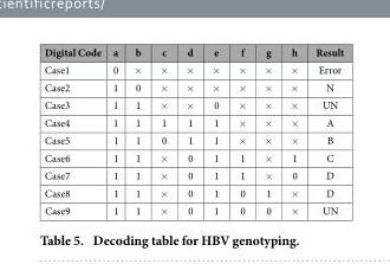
<table><thead><tr><td>Digital Code</td><td>a</td><td>b</td><td>c</td><td>d</td><td>e</td><td>f</td><td>g</td><td>h</td><td>Result</td></tr></thead><tbody><tr><td>Case1</td><td>0</td><td>×</td><td>×</td><td>×</td><td>×</td><td>×</td><td>×</td><td>×</td><td>Error</td></tr><tr><td>Case2</td><td>1</td><td>0</td><td>×</td><td>×</td><td>×</td><td>×</td><td>×</td><td>×</td><td>N</td></tr><tr><td>Case3</td><td>1</td><td>1</td><td>×</td><td>×</td><td>0</td><td>×</td><td>×</td><td>×</td><td>UN</td></tr><tr><td>Case4</td><td>1</td><td>1</td><td>1</td><td>1</td><td>1</td><td>×</td><td>×</td><td>×</td><td>A</td></tr><tr><td>Case5</td><td>1</td><td>1</td><td>0</td><td>1</td><td>1</td><td>×</td><td>×</td><td>×</td><td>B</td></tr><tr><td>Case6</td><td>1</td><td>1</td><td>×</td><td>0</td><td>1</td><td>1</td><td>×</td><td>1</td><td>C</td></tr><tr><td>Case7</td><td>1</td><td>1</td><td>×</td><td>0</td><td>1</td><td>1</td><td>×</td><td>0</td><td>D</td></tr><tr><td>Case8</td><td>1</td><td>1</td><td>×</td><td>0</td><td>1</td><td>0</td><td>1</td><td>×</td><td>D</td></tr><tr><td>Case9</td><td>1</td><td>1</td><td>×</td><td>0</td><td>1</td><td>0</td><td>0</td><td>×</td><td>UN</td></tr></tbody></table>